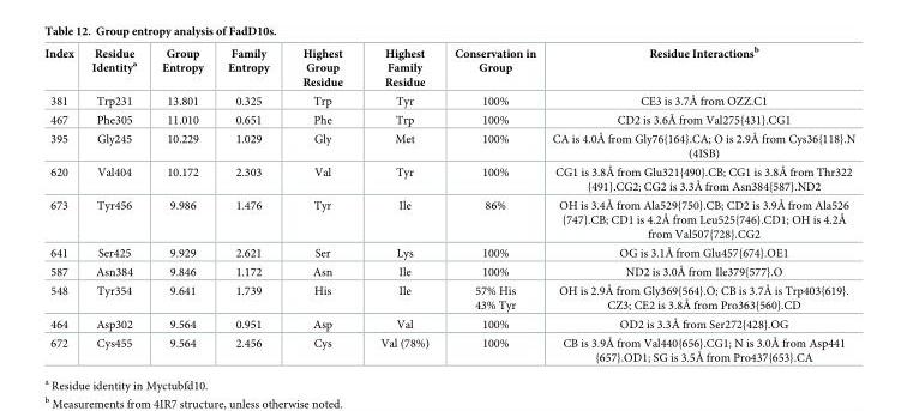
<table><thead><tr><td>Index</td><td>Residue Identity<sup>a</sup></td><td>Group Entropy</td><td>Family Entropy</td><td>Highest Group Residue</td><td>Highest Family Residue</td><td>Conservation in Group</td><td>Residue Interactions<sup>b</sup></td></tr></thead><tbody><tr><td>381</td><td>Trp231</td><td>13.801</td><td>0.325</td><td>Trp</td><td>Tyr</td><td>100%</td><td>CE3 is 3.7Å from OZZ.C1</td></tr><tr><td>467</td><td>Phe305</td><td>11.010</td><td>0.651</td><td>Phe</td><td>Trp</td><td>100%</td><td>CD2 is 3.6Å from Val275{431}.CG1</td></tr><tr><td>395</td><td>Gly245</td><td>10.229</td><td>1.029</td><td>Gly</td><td>Met</td><td>100%</td><td>CA is 4.0Å from Gly76{164}.CA; O is 2.9Å from Cys36{118}.N (4ISB)</td></tr><tr><td>620</td><td>Val404</td><td>10.172</td><td>2.303</td><td>Val</td><td>Tyr</td><td>100%</td><td>CG1 is 3.8Å from Glu321{490}.CB; CG1 is 3.8Å from Thr322 {491}.CG2; CG2 is 3.3Å from Asn384{587}.ND2</td></tr><tr><td>673</td><td>Tyr456</td><td>9.986</td><td>1.476</td><td>Tyr</td><td>Ile</td><td>86%</td><td>OH is 3.4Å from Ala529{750}.CB; CD2 is 3.9Å from Ala526 {747}.CB; CD1 is 4.2Å from Leu525{746}.CD1; OH is 4.2Å from Val507{728}.CG2</td></tr><tr><td>641</td><td>Ser425</td><td>9.929</td><td>2.621</td><td>Ser</td><td>Lys</td><td>100%</td><td>OG is 3.1Å from Glu457{674}.OE1</td></tr><tr><td>587</td><td>Asn384</td><td>9.846</td><td>1.172</td><td>Asn</td><td>Ile</td><td>100%</td><td>ND2 is 3.0Å from Ile379{577}.O</td></tr><tr><td>548</td><td>Tyr354</td><td>9.641</td><td>1.739</td><td>His</td><td>Ile</td><td>57% His 43% Tyr</td><td>OH is 2.9Å from Gly369{564}.O; CB is 3.7Å is Trp403{619}. CZ3; CE2 is 3.8Å from Pro363{560}.CD</td></tr><tr><td>464</td><td>Asp302</td><td>9.564</td><td>0.951</td><td>Asp</td><td>Val</td><td>100%</td><td>OD2 is 3.3Å from Ser272{428}.OG</td></tr><tr><td>672</td><td>Cys455</td><td>9.564</td><td>2.456</td><td>Cys</td><td>Val (78%)</td><td>100%</td><td>CB is 3.9Å from Val440{656}.CG1; N is 3.0Å from Asp441 {657}.OD1; SG is 3.5Å from Pro437{653}.CA</td></tr></tbody></table>